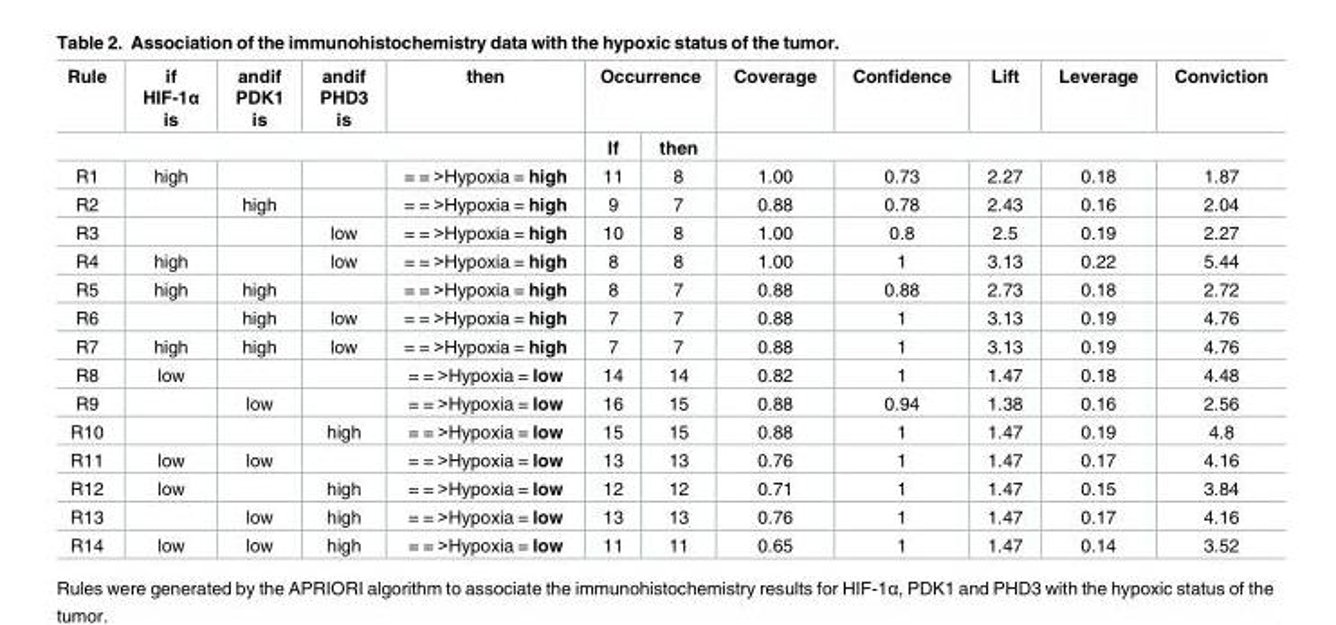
<table><thead><tr><td rowspan="2">Rule</td><td rowspan="2">if HIF-1α is</td><td rowspan="2">andif PDK1 is</td><td rowspan="2">andif PHD3 is</td><td rowspan="2">then</td><td colspan="2">Occurrence</td><td rowspan="2">Coverage</td><td rowspan="2">Confidence</td><td rowspan="2">Lift</td><td rowspan="2">Leverage</td><td rowspan="2">Conviction</td></tr><tr><td>If</td><td>then</td></tr></thead><tbody><tr><td>R1</td><td>high</td><td></td><td></td><td>= = &gt;Hypoxia = high</td><td>11</td><td>8</td><td>1.00</td><td>0.73</td><td>2.27</td><td>0.18</td><td>1.87</td></tr><tr><td>R2</td><td></td><td>high</td><td></td><td>= = &gt;Hypoxia = high</td><td>9</td><td>7</td><td>0.88</td><td>0.78</td><td>2.43</td><td>0.16</td><td>2.04</td></tr><tr><td>R3</td><td></td><td></td><td>low</td><td>= = &gt;Hypoxia = high</td><td>10</td><td>8</td><td>1.00</td><td>0.8</td><td>2.5</td><td>0.19</td><td>2.27</td></tr><tr><td>R4</td><td>high</td><td></td><td>low</td><td>= = &gt;Hypoxia = high</td><td>8</td><td>8</td><td>1.00</td><td>1</td><td>3.13</td><td>0.22</td><td>5.44</td></tr><tr><td>R5</td><td>high</td><td>high</td><td></td><td>= = &gt;Hypoxia = high</td><td>8</td><td>7</td><td>0.88</td><td>0.88</td><td>2.73</td><td>0.18</td><td>2.72</td></tr><tr><td>R6</td><td></td><td>high</td><td>low</td><td>= = &gt;Hypoxia = high</td><td>7</td><td>7</td><td>0.88</td><td>1</td><td>3.13</td><td>0.19</td><td>4.76</td></tr><tr><td>R7</td><td>high</td><td>high</td><td>low</td><td>= = &gt;Hypoxia = high</td><td>7</td><td>7</td><td>0.88</td><td>1</td><td>3.13</td><td>0.19</td><td>4.76</td></tr><tr><td>R8</td><td>low</td><td></td><td></td><td>= = &gt;Hypoxia = low</td><td>14</td><td>14</td><td>0.82</td><td>1</td><td>1.47</td><td>0.18</td><td>4.48</td></tr><tr><td>R9</td><td></td><td>low</td><td></td><td>= = &gt;Hypoxia = low</td><td>16</td><td>15</td><td>0.88</td><td>0.94</td><td>1.38</td><td>0.16</td><td>2.56</td></tr><tr><td>R10</td><td></td><td></td><td>high</td><td>= = &gt;Hypoxia = low</td><td>15</td><td>15</td><td>0.88</td><td>1</td><td>1.47</td><td>0.19</td><td>4.8</td></tr><tr><td>R11</td><td>low</td><td>low</td><td></td><td>= = &gt;Hypoxia = low</td><td>13</td><td>13</td><td>0.76</td><td>1</td><td>1.47</td><td>0.17</td><td>4.16</td></tr><tr><td>R12</td><td>low</td><td></td><td>high</td><td>= = &gt;Hypoxia = low</td><td>12</td><td>12</td><td>0.71</td><td>1</td><td>1.47</td><td>0.15</td><td>3.84</td></tr><tr><td>R13</td><td></td><td>low</td><td>high</td><td>= = &gt;Hypoxia = low</td><td>13</td><td>13</td><td>0.76</td><td>1</td><td>1.47</td><td>0.17</td><td>4.16</td></tr><tr><td>R14</td><td>low</td><td>low</td><td>high</td><td>= = &gt;Hypoxia = low</td><td>11</td><td>11</td><td>0.65</td><td>1</td><td>1.47</td><td>0.14</td><td>3.52</td></tr></tbody></table>